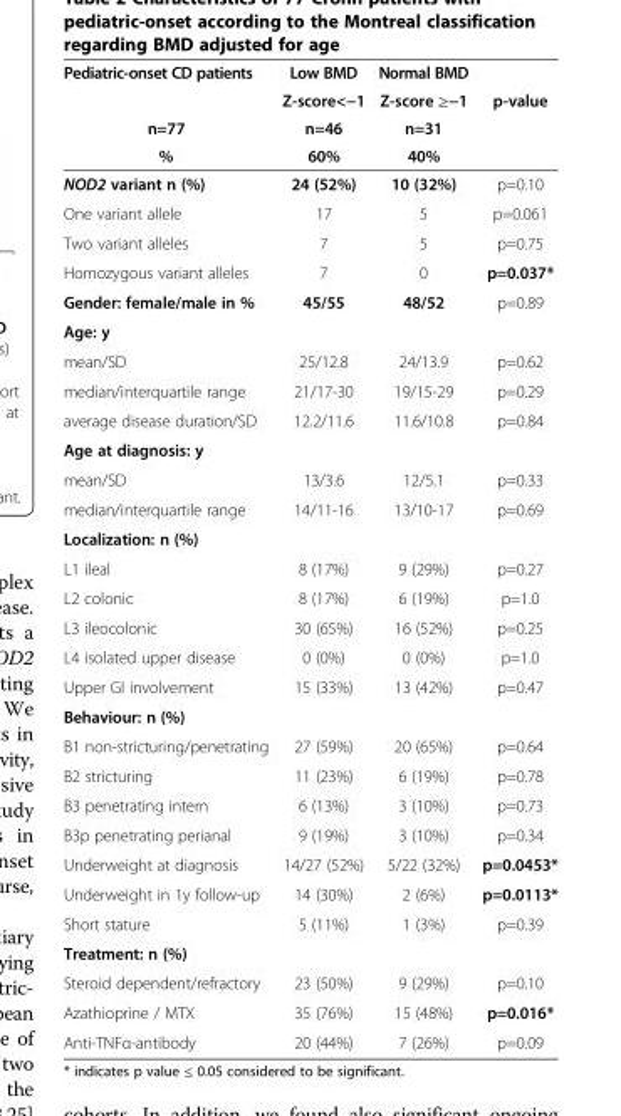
<table><thead><tr><td rowspan="4">Pediatric-onset CD patients n=77 %</td><td rowspan="4">Low BMD Z-score&lt;−1 n=46 60%</td><td rowspan="4">Normal BMD Z-score ≥−1 n=31 40%</td><td rowspan="4">p-value</td></tr><tr></tr><tr></tr><tr></tr></thead><tbody><tr><td>NOD2 variant n (%)</td><td>24 (52%)</td><td>10 (32%)</td><td>p=0.10</td></tr><tr><td>One variant allele</td><td>17</td><td>5</td><td>p=0.061</td></tr><tr><td>Two variant alleles</td><td>7</td><td>5</td><td>p=0.75</td></tr><tr><td>Homozygous variant alleles</td><td>7</td><td>0</td><td>p=0.037*</td></tr><tr><td>Gender: female/male in %</td><td>45/55</td><td>48/52</td><td>p=0.89</td></tr><tr><td colspan="4">Age: y</td></tr><tr><td>mean/SD</td><td>25/12.8</td><td>24/13.9</td><td>p=0.62</td></tr><tr><td>median/interquartile range</td><td>21/17-30</td><td>19/15-29</td><td>p=0.29</td></tr><tr><td>average disease duration/SD</td><td>12.2/11.6</td><td>11.6/10.8</td><td>p=0.84</td></tr><tr><td colspan="4">Age at diagnosis: y</td></tr><tr><td>mean/SD</td><td>13/3.6</td><td>12/5.1</td><td>p=0.33</td></tr><tr><td>median/interquartile range</td><td>14/11-16</td><td>13/10-17</td><td>p=0.69</td></tr><tr><td colspan="4">Localization: n (%)</td></tr><tr><td>L1 ileal</td><td>8 (17%)</td><td>9 (29%)</td><td>p=0.27</td></tr><tr><td>L2 colonic</td><td>8 (17%)</td><td>6 (19%)</td><td>p=1.0</td></tr><tr><td>L3 ileocolonic</td><td>30 (65%)</td><td>16 (52%)</td><td>p=0.25</td></tr><tr><td>L4 isolated upper disease</td><td>0 (0%)</td><td>0 (0%)</td><td>p=1.0</td></tr><tr><td>Upper GI involvement</td><td>15 (33%)</td><td>13 (42%)</td><td>p=0.47</td></tr><tr><td colspan="4">Behaviour: n (%)</td></tr><tr><td>B1 non-stricturing/penetrating</td><td>27 (59%)</td><td>20 (65%)</td><td>p=0.64</td></tr><tr><td>B2 stricturing</td><td>11 (23%)</td><td>6 (19%)</td><td>p=0.78</td></tr><tr><td>B3 penetrating intern</td><td>6 (13%)</td><td>3 (10%)</td><td>p=0.73</td></tr><tr><td>B3p penetrating perianal</td><td>9 (19%)</td><td>3 (10%)</td><td>p=0.34</td></tr><tr><td>Underweight at diagnosis</td><td>14/27 (52%)</td><td>5/22 (32%)</td><td>p=0.0453*</td></tr><tr><td>Underweight in 1y follow-up</td><td>14 (30%)</td><td>2 (6%)</td><td>p=0.0113*</td></tr><tr><td>Short stature</td><td>5 (11%)</td><td>1 (3%)</td><td>p=0.39</td></tr><tr><td colspan="4">Treatment: n (%)</td></tr><tr><td>Steroid dependent/refractory</td><td>23 (50%)</td><td>9 (29%)</td><td>p=0.10</td></tr><tr><td>Azathioprine / MTX</td><td>35 (76%)</td><td>15 (48%)</td><td>p=0.016*</td></tr><tr><td>Anti-TNFα-antibody</td><td>20 (44%)</td><td>7 (26%)</td><td>p=0.09</td></tr></tbody></table>